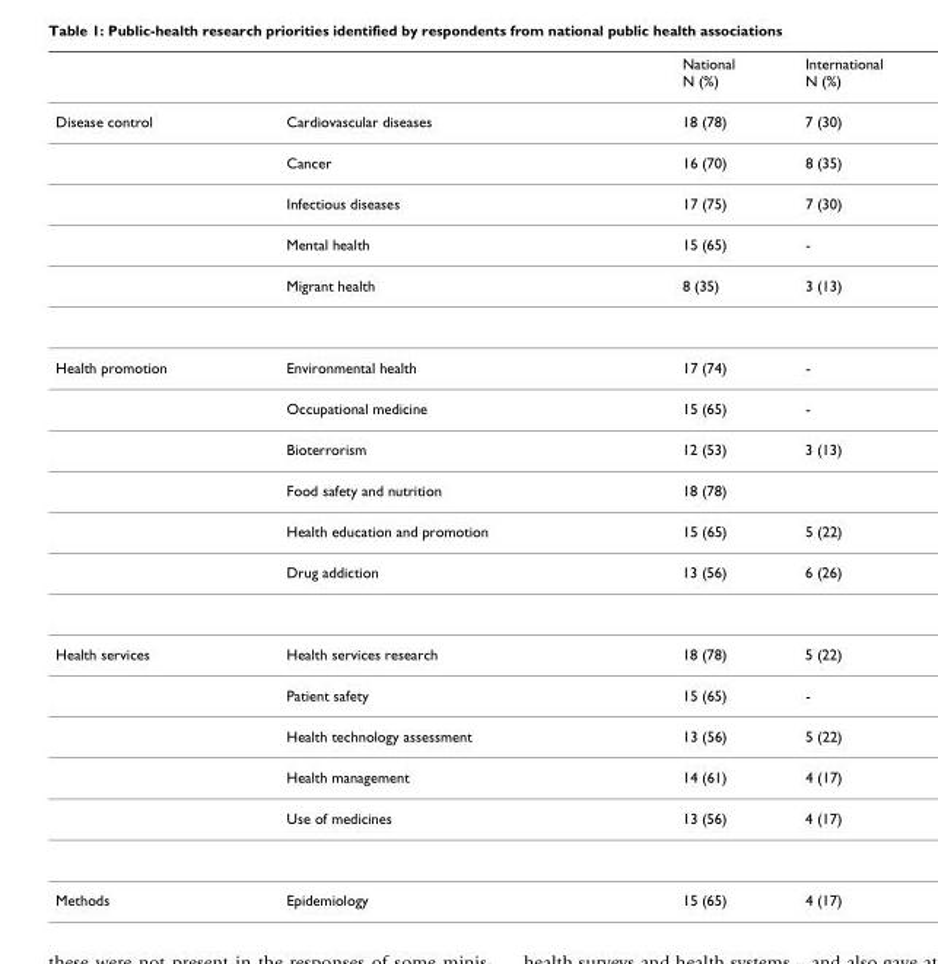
<table><thead><tr><td></td><td></td><td>National N (%)</td><td>International N (%)</td></tr></thead><tbody><tr><td rowspan="5">Disease control</td><td>Cardiovascular diseases</td><td>18 (78)</td><td>7 (30)</td></tr><tr><td>Cancer</td><td>16 (70)</td><td>8 (35)</td></tr><tr><td>Infectious diseases</td><td>17 (75)</td><td>7 (30)</td></tr><tr><td>Mental health</td><td>15 (65)</td><td>-</td></tr><tr><td>Migrant health</td><td>8 (35)</td><td>3 (13)</td></tr><tr><td rowspan="6">Health promotion</td><td>Environmental health</td><td>17 (74)</td><td>-</td></tr><tr><td>Occupational medicine</td><td>15 (65)</td><td>-</td></tr><tr><td>Bioterrorism</td><td>12 (53)</td><td>3 (13)</td></tr><tr><td>Food safety and nutrition</td><td>18 (78)</td><td></td></tr><tr><td>Health education and promotion</td><td>15 (65)</td><td>5 (22)</td></tr><tr><td>Drug addiction</td><td>13 (56)</td><td>6 (26)</td></tr><tr><td rowspan="5">Health services</td><td>Health services research</td><td>18 (78)</td><td>5 (22)</td></tr><tr><td>Patient safety</td><td>15 (65)</td><td>-</td></tr><tr><td>Health technology assessment</td><td>13 (56)</td><td>5 (22)</td></tr><tr><td>Health management</td><td>14 (61)</td><td>4 (17)</td></tr><tr><td>Use of medicines</td><td>13 (56)</td><td>4 (17)</td></tr><tr><td>Methods</td><td>Epidemiology</td><td>15 (65)</td><td>4 (17)</td></tr></tbody></table>